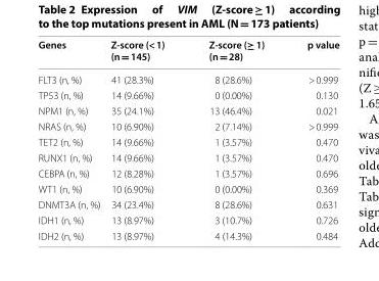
<table><thead><tr><td>Genes</td><td>Z‑score (&lt; 1) (n = 145)</td><td>Z‑score (≥ 1) (n = 28)</td><td>p value</td></tr></thead><tbody><tr><td>FLT3 (n, %)</td><td>41 (28.3%)</td><td>8 (28.6%)</td><td>&gt; 0.999</td></tr><tr><td>TP53 (n, %)</td><td>14 (9.66%)</td><td>0 (0.00%)</td><td>0.130</td></tr><tr><td>NPM1 (n, %)</td><td>35 (24.1%)</td><td>13 (46.4%)</td><td>0.021</td></tr><tr><td>NRAS (n, %)</td><td>10 (6.90%)</td><td>2 (7.14%)</td><td>&gt; 0.999</td></tr><tr><td>TET2 (n, %)</td><td>14 (9.66%)</td><td>1 (3.57%)</td><td>0.470</td></tr><tr><td>RUNX1 (n, %)</td><td>14 (9.66%)</td><td>1 (3.57%)</td><td>0.470</td></tr><tr><td>CEBPA (n, %)</td><td>12 (8.28%)</td><td>1 (3.57%)</td><td>0.696</td></tr><tr><td>WT1 (n, %)</td><td>10 (6.90%)</td><td>0 (0.00%)</td><td>0.369</td></tr><tr><td>DNMT3A (n, %)</td><td>34 (23.4%)</td><td>8 (28.6%)</td><td>0.631</td></tr><tr><td>IDH1 (n, %)</td><td>13 (8.97%)</td><td>3 (10.7%)</td><td>0.726</td></tr><tr><td>IDH2 (n, %)</td><td>13 (8.97%)</td><td>4 (14.3%)</td><td>0.484</td></tr></tbody></table>